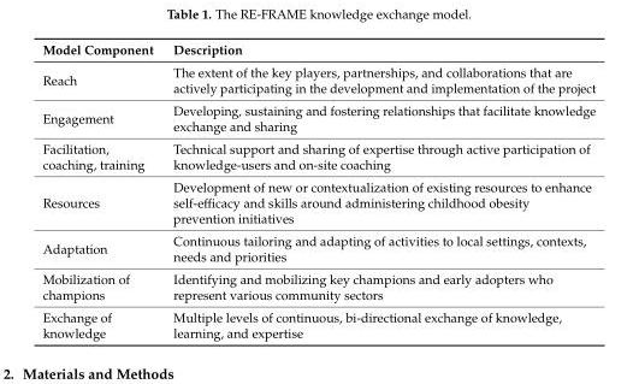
<table><thead><tr><td>Model Component</td><td>Description</td></tr></thead><tbody><tr><td>Reach</td><td>The extent of the key players, partnerships, and collaborations that are actively participating in the development and implementation of the project</td></tr><tr><td>Engagement</td><td>Developing, sustaining and fostering relationships that facilitate knowledge exchange and sharing</td></tr><tr><td>Facilitation, coaching, training</td><td>Technical support and sharing of expertise through active participation of knowledge-users and on-site coaching</td></tr><tr><td>Resources</td><td>Development of new or contextualization of existing resources to enhance self-efficacy and skills around administering childhood obesity prevention initiatives</td></tr><tr><td>Adaptation</td><td>Continuous tailoring and adapting of activities to local settings, contexts, needs and priorities</td></tr><tr><td>Mobilization of champions</td><td>Identifying and mobilizing key champions and early adopters who represent various community sectors</td></tr><tr><td>Exchange of knowledge</td><td>Multiple levels of continuous, bi-directional exchange of knowledge, learning, and expertise</td></tr></tbody></table>